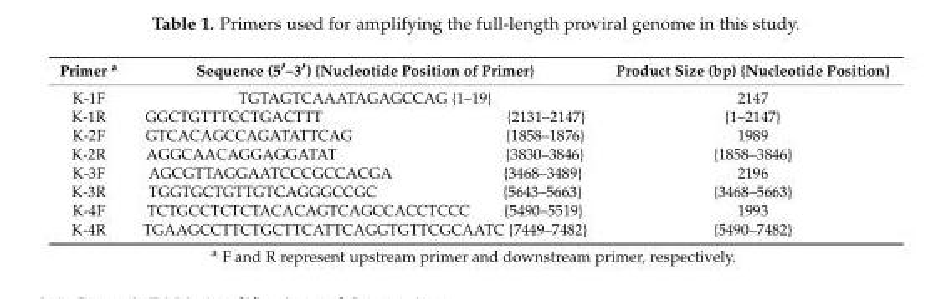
<table><thead><tr><td>Primer <sup>a</sup></td><td>Sequence (5′–3′) {Nucleotide Position of Primer}</td><td>Product Size (bp) {Nucleotide Position}</td></tr></thead><tbody><tr><td>K-1F</td><td>TGTAGTCAAATAGAGCCAG {1–19}</td><td>2147</td></tr><tr><td>K-1R</td><td>GGCTGTTTCCTGACTTT {2131–2147}</td><td>{1–2147}</td></tr><tr><td>K-2F</td><td>GTCACAGCCAGATATTCAG {1858–1876}</td><td>1989</td></tr><tr><td>K-2R</td><td>AGGCAACAGGAGGATAT {3830–3846}</td><td>{1858–3846}</td></tr><tr><td>K-3F</td><td>AGCGTTAGGAATCCCGCCACGA {3468–3489}</td><td>2196</td></tr><tr><td>K-3R</td><td>TGGTGCTGTTGTCAGGGCCGC {5643–5663}</td><td>{3468–5663}</td></tr><tr><td>K-4F</td><td>TCTGCCTCTCTACACAGTCAGCCACCTCCC {5490–5519}</td><td>1993</td></tr><tr><td>K-4R</td><td>TGAAGCCTTCTGCTTCATTCAGGTGTTCGCAATC {7449–7482}</td><td>{5490–7482}</td></tr></tbody></table>